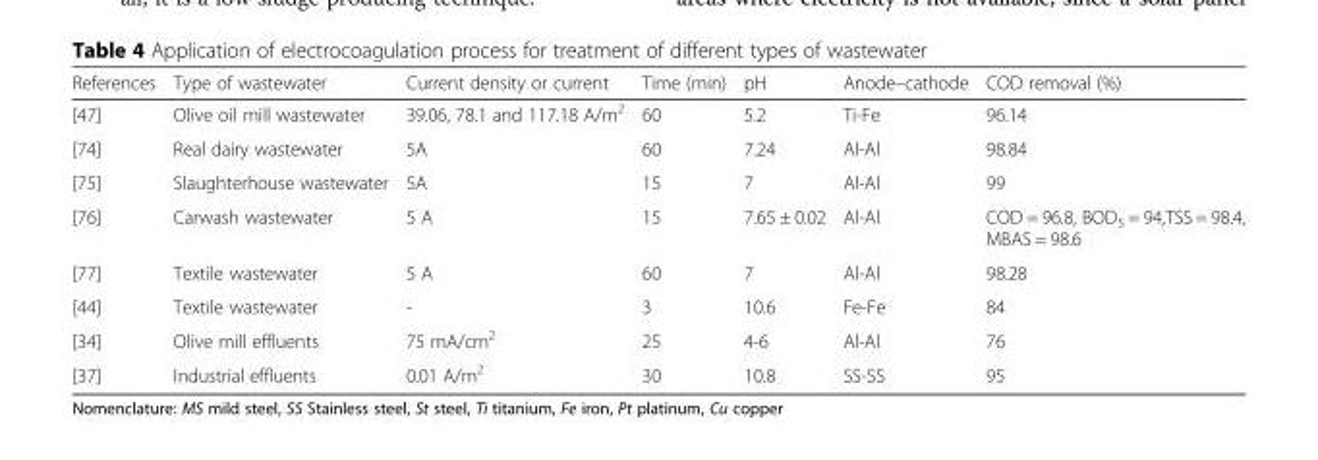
<table><thead><tr><td>References</td><td>Type of wastewater</td><td>Current density or current</td><td>Time (min)</td><td>pH</td><td>Anode–cathode</td><td>COD removal (%)</td></tr></thead><tbody><tr><td>[47]</td><td>Olive oil mill wastewater</td><td>39.06, 78.1 and 117.18 A/m<sup>2</sup></td><td>60</td><td>5.2</td><td>Ti-Fe</td><td>96.14</td></tr><tr><td>[74]</td><td>Real dairy wastewater</td><td>5A</td><td>60</td><td>7.24</td><td>Al-Al</td><td>98.84</td></tr><tr><td>[75]</td><td>Slaughterhouse wastewater</td><td>5A</td><td>15</td><td>7</td><td>Al-Al</td><td>99</td></tr><tr><td>[76]</td><td>Carwash wastewater</td><td>5 A</td><td>15</td><td>7.65 ± 0.02</td><td>Al-Al</td><td>COD = 96.8, BOD<sub>5</sub> = 94,TSS = 98.4, MBAS = 98.6</td></tr><tr><td>[77]</td><td>Textile wastewater</td><td>5 A</td><td>60</td><td>7</td><td>Al-Al</td><td>98.28</td></tr><tr><td>[44]</td><td>Textile wastewater</td><td>-</td><td>3</td><td>10.6</td><td>Fe-Fe</td><td>84</td></tr><tr><td>[34]</td><td>Olive mill effluents</td><td>75 mA/cm<sup>2</sup></td><td>25</td><td>4-6</td><td>Al-Al</td><td>76</td></tr><tr><td>[37]</td><td>Industrial effluents</td><td>0.01 A/m<sup>2</sup></td><td>30</td><td>10.8</td><td>SS-SS</td><td>95</td></tr></tbody></table>